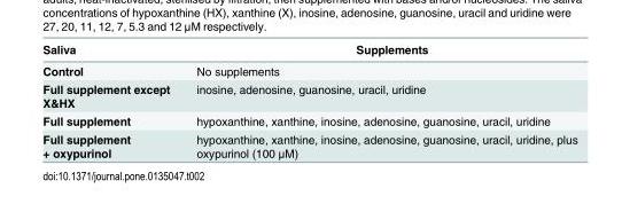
<table><thead><tr><td>Saliva</td><td>Supplements</td></tr></thead><tbody><tr><td>Control</td><td>No supplements</td></tr><tr><td>Full supplement except X&amp;HX</td><td>inosine, adenosine, guanosine, uracil, uridine</td></tr><tr><td>Full supplement</td><td>hypoxanthine, xanthine, inosine, adenosine, guanosine, uracil, uridine</td></tr><tr><td>Full supplement + oxypurinol</td><td>hypoxanthine, xanthine, inosine, adenosine, guanosine, uracil, uridine, plus oxypurinol (100 μM)</td></tr></tbody></table>